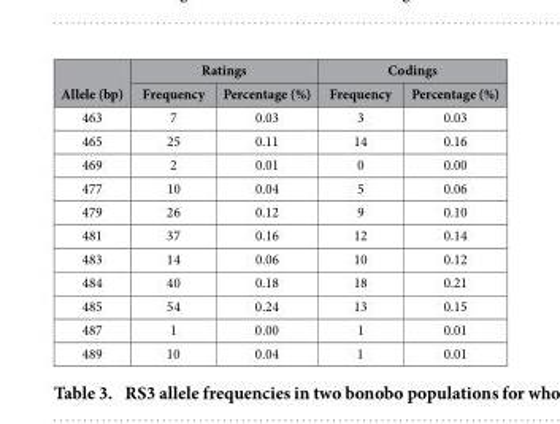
<table><thead><tr><td rowspan="2">Allele (bp)</td><td colspan="2">Ratings</td><td colspan="2">Codings</td></tr><tr><td>Frequency</td><td>Percentage (%)</td><td>Frequency</td><td>Percentage (%)</td></tr></thead><tbody><tr><td>463</td><td>7</td><td>0.03</td><td>3</td><td>0.03</td></tr><tr><td>465</td><td>25</td><td>0.11</td><td>14</td><td>0.16</td></tr><tr><td>469</td><td>2</td><td>0.01</td><td>0</td><td>0.00</td></tr><tr><td>477</td><td>10</td><td>0.04</td><td>5</td><td>0.06</td></tr><tr><td>479</td><td>26</td><td>0.12</td><td>9</td><td>0.10</td></tr><tr><td>481</td><td>37</td><td>0.16</td><td>12</td><td>0.14</td></tr><tr><td>483</td><td>14</td><td>0.06</td><td>10</td><td>0.12</td></tr><tr><td>484</td><td>40</td><td>0.18</td><td>18</td><td>0.21</td></tr><tr><td>485</td><td>54</td><td>0.24</td><td>13</td><td>0.15</td></tr><tr><td>487</td><td>1</td><td>0.00</td><td>1</td><td>0.01</td></tr><tr><td>489</td><td>10</td><td>0.04</td><td>1</td><td>0.01</td></tr></tbody></table>